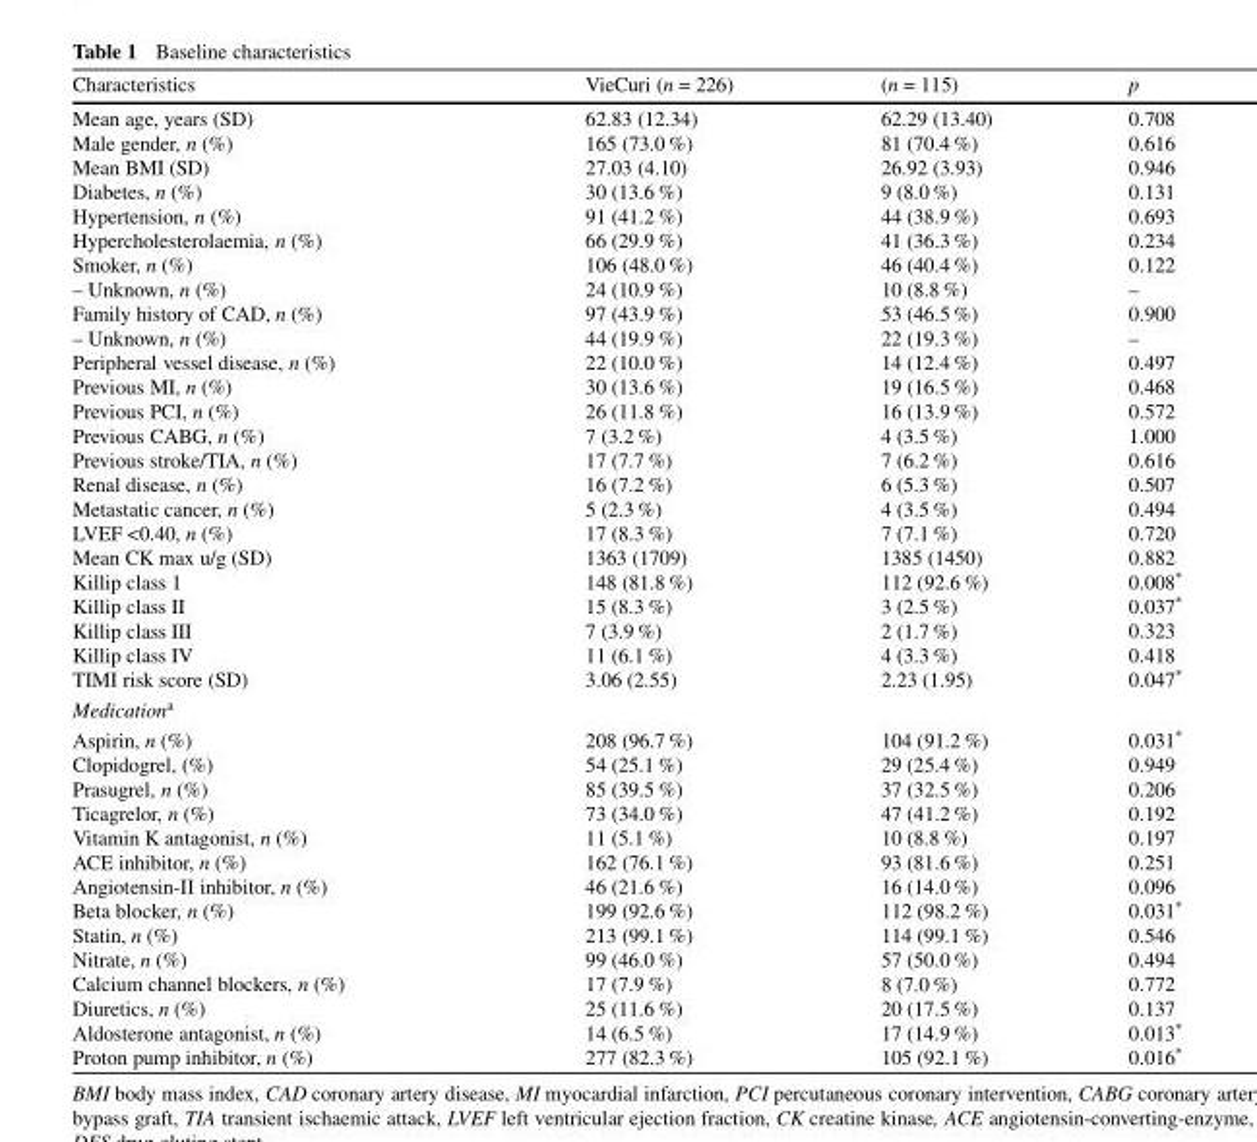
<table><thead><tr><td>Characteristics</td><td>VieCuri (n = 226)</td><td>(n = 115)</td><td>p</td></tr></thead><tbody><tr><td>Mean age, years (SD) Male gender, n (%) Mean BMI (SD) Diabetes, n (%) Hypertension, n (%) Hypercholesterolaemia, n (%) Smoker, n (%) – Unknown, n (%) Family history of CAD, n (%) – Unknown, n (%) Peripheral vessel disease, n (%) Previous MI, n (%) Previous PCI, n (%) Previous CABG, n (%) Previous stroke/TIA, n (%) Renal disease, n (%) Metastatic cancer, n (%) LVEF &lt;0.40, n (%) Mean CK max u/g (SD) Killip class 1 Killip class II Killip class III Killip class IV TIMI risk score (SD)</td><td>62.83 (12.34) 165 (73.0 %) 27.03 (4.10) 30 (13.6 %) 91 (41.2 %) 66 (29.9 %) 106 (48.0 %) 24 (10.9 %) 97 (43.9 %) 44 (19.9 %) 22 (10.0 %) 30 (13.6 %) 26 (11.8 %) 7 (3.2 %) 17 (7.7 %) 16 (7.2 %) 5 (2.3 %) 17 (8.3 %) 1363 (1709) 148 (81.8 %) 15 (8.3 %) 7 (3.9 %) 11 (6.1 %) 3.06 (2.55)</td><td>62.29 (13.40) 81 (70.4 %) 26.92 (3.93) 9 (8.0 %) 44 (38.9 %) 41 (36.3 %) 46 (40.4 %) 10 (8.8 %) 53 (46.5 %) 22 (19.3 %) 14 (12.4 %) 19 (16.5 %) 16 (13.9 %) 4 (3.5 %) 7 (6.2 %) 6 (5.3 %) 4 (3.5 %) 7 (7.1 %) 1385 (1450) 112 (92.6 %) 3 (2.5 %) 2 (1.7 %) 4 (3.3 %) 2.23 (1.95)</td><td>0.708 0.616 0.946 0.131 0.693 0.234 0.122 – 0.900 – 0.497 0.468 0.572 1.000 0.616 0.507 0.494 0.720 0.882 0.008* 0.037* 0.323 0.418 0.047*</td></tr><tr><td colspan="4">Medication<sup>a</sup></td></tr><tr><td>Aspirin, n (%) Clopidogrel, (%) Prasugrel, n (%) Ticagrelor, n (%) Vitamin K antagonist, n (%) ACE inhibitor, n (%) Angiotensin-II inhibitor, n (%) Beta blocker, n (%) Statin, n (%) Nitrate, n (%) Calcium channel blockers, n (%) Diuretics, n (%) Aldosterone antagonist, n (%) Proton pump inhibitor, n (%)</td><td>208 (96.7 %) 54 (25.1 %) 85 (39.5 %) 73 (34.0 %) 11 (5.1 %) 162 (76.1 %) 46 (21.6 %) 199 (92.6 %) 213 (99.1 %) 99 (46.0 %) 17 (7.9 %) 25 (11.6 %) 14 (6.5 %) 277 (82.3 %)</td><td>104 (91.2 %) 29 (25.4 %) 37 (32.5 %) 47 (41.2 %) 10 (8.8 %) 93 (81.6 %) 16 (14.0 %) 112 (98.2 %) 114 (99.1 %) 57 (50.0 %) 8 (7.0 %) 20 (17.5 %) 17 (14.9 %) 105 (92.1 %)</td><td>0.031* 0.949 0.206 0.192 0.197 0.251 0.096 0.031* 0.546 0.494 0.772 0.137 0.013* 0.016*</td></tr></tbody></table>